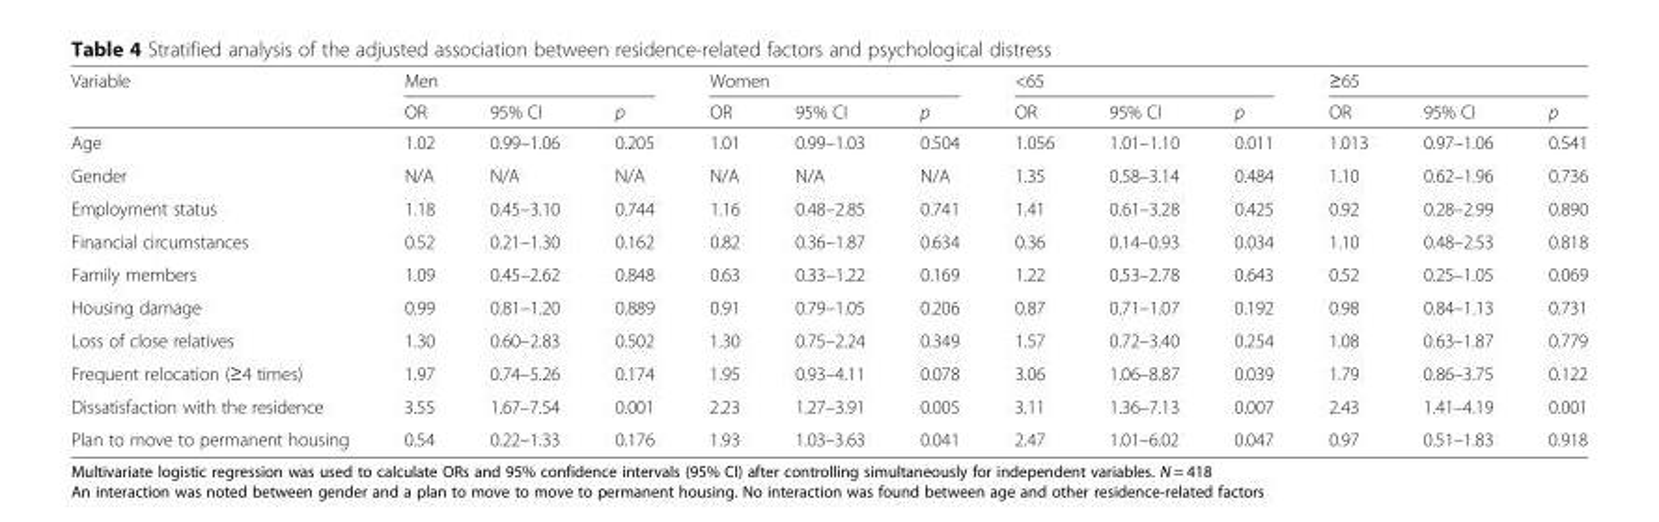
<table><thead><tr><td rowspan="2">Variable</td><td colspan="3">Men</td><td colspan="3">Women</td><td colspan="3">&lt;65</td><td colspan="3">≥65</td></tr><tr><td>OR</td><td>95% CI</td><td>p</td><td>OR</td><td>95% CI</td><td>p</td><td>OR</td><td>95% CI</td><td>p</td><td>OR</td><td>95% CI</td><td>p</td></tr></thead><tbody><tr><td>Age</td><td>1.02</td><td>0.99–1.06</td><td>0.205</td><td>1.01</td><td>0.99–1.03</td><td>0.504</td><td>1.056</td><td>1.01–1.10</td><td>0.011</td><td>1.013</td><td>0.97–1.06</td><td>0.541</td></tr><tr><td>Gender</td><td>N/A</td><td>N/A</td><td>N/A</td><td>N/A</td><td>N/A</td><td>N/A</td><td>1.35</td><td>0.58–3.14</td><td>0.484</td><td>1.10</td><td>0.62–1.96</td><td>0.736</td></tr><tr><td>Employment status</td><td>1.18</td><td>0.45–3.10</td><td>0.744</td><td>1.16</td><td>0.48–2.85</td><td>0.741</td><td>1.41</td><td>0.61–3.28</td><td>0.425</td><td>0.92</td><td>0.28–2.99</td><td>0.890</td></tr><tr><td>Financial circumstances</td><td>0.52</td><td>0.21–1.30</td><td>0.162</td><td>0.82</td><td>0.36–1.87</td><td>0.634</td><td>0.36</td><td>0.14–0.93</td><td>0.034</td><td>1.10</td><td>0.48–2.53</td><td>0.818</td></tr><tr><td>Family members</td><td>1.09</td><td>0.45–2.62</td><td>0.848</td><td>0.63</td><td>0.33–1.22</td><td>0.169</td><td>1.22</td><td>0.53–2.78</td><td>0.643</td><td>0.52</td><td>0.25–1.05</td><td>0.069</td></tr><tr><td>Housing damage</td><td>0.99</td><td>0.81–1.20</td><td>0.889</td><td>0.91</td><td>0.79–1.05</td><td>0.206</td><td>0.87</td><td>0.71–1.07</td><td>0.192</td><td>0.98</td><td>0.84–1.13</td><td>0.731</td></tr><tr><td>Loss of close relatives</td><td>1.30</td><td>0.60–2.83</td><td>0.502</td><td>1.30</td><td>0.75–2.24</td><td>0.349</td><td>1.57</td><td>0.72–3.40</td><td>0.254</td><td>1.08</td><td>0.63–1.87</td><td>0.779</td></tr><tr><td>Frequent relocation (≥4 times)</td><td>1.97</td><td>0.74–5.26</td><td>0.174</td><td>1.95</td><td>0.93–4.11</td><td>0.078</td><td>3.06</td><td>1.06–8.87</td><td>0.039</td><td>1.79</td><td>0.86–3.75</td><td>0.122</td></tr><tr><td>Dissatisfaction with the residence</td><td>3.55</td><td>1.67–7.54</td><td>0.001</td><td>2.23</td><td>1.27–3.91</td><td>0.005</td><td>3.11</td><td>1.36–7.13</td><td>0.007</td><td>2.43</td><td>1.41–4.19</td><td>0.001</td></tr><tr><td>Plan to move to permanent housing</td><td>0.54</td><td>0.22–1.33</td><td>0.176</td><td>1.93</td><td>1.03–3.63</td><td>0.041</td><td>2.47</td><td>1.01–6.02</td><td>0.047</td><td>0.97</td><td>0.51–1.83</td><td>0.918</td></tr></tbody></table>